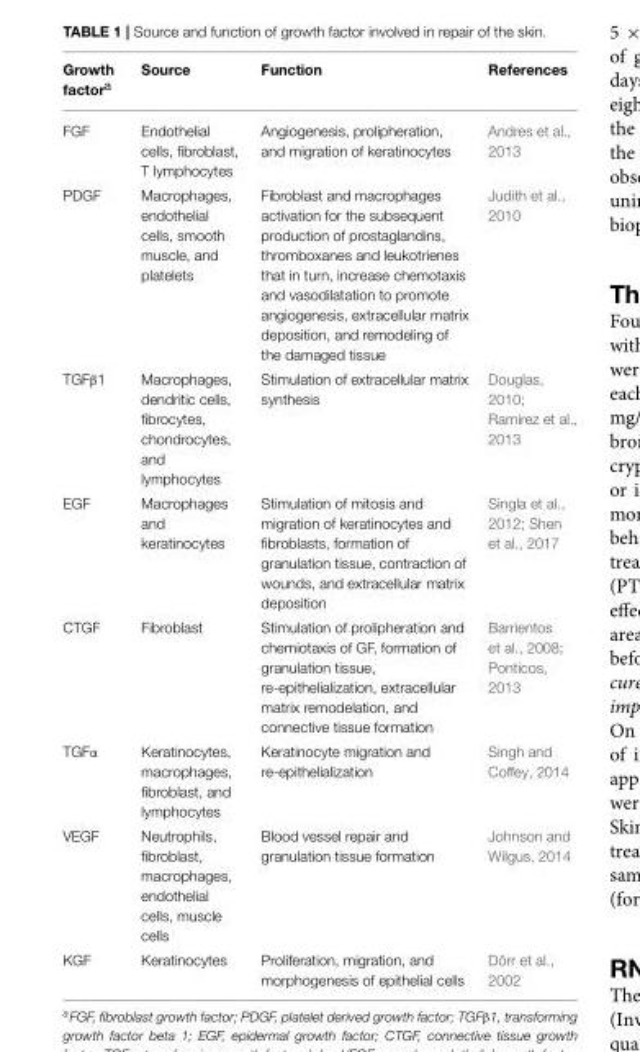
<table><thead><tr><td>Growth factor<sup>a</sup></td><td>Source</td><td>Function</td><td>References</td></tr></thead><tbody><tr><td>FGF</td><td>Endothelial cells, fibroblast, T lymphocytes</td><td>Angiogenesis, prolipheration, and migration of keratinocytes</td><td>Andres et al., 2013</td></tr><tr><td>PDGF</td><td>Macrophages, endothelial cells, smooth muscle, and platelets</td><td>Fibroblast and macrophages activation for the subsequent production of prostaglandins, thromboxanes and leukotrienes that in turn, increase chemotaxis and vasodilatation to promote angiogenesis, extracellular matrix deposition, and remodeling of the damaged tissue</td><td>Judith et al., 2010</td></tr><tr><td>TGFβ1</td><td>Macrophages, dendritic cells, fibrocytes, chondrocytes, and lymphocytes</td><td>Stimulation of extracellular matrix synthesis</td><td>Douglas, 2010; Ramirez et al., 2013</td></tr><tr><td>EGF</td><td>Macrophages and keratinocytes</td><td>Stimulation of mitosis and migration of keratinocytes and fibroblasts, formation of granulation tissue, contraction of wounds, and extracellular matrix deposition</td><td>Singla et al., 2012; Shen et al., 2017</td></tr><tr><td>CTGF</td><td>Fibroblast</td><td>Stimulation of prolipheration and chemiotaxis of GF, formation of granulation tissue, re-epithelialization, extracellular matrix remodelation, and connective tissue formation</td><td>Barrientos et al., 2008; Ponticos, 2013</td></tr><tr><td>TGFα</td><td>Keratinocytes, macrophages, fibroblast, and lymphocytes</td><td>Keratinocyte migration and re-epithelialization</td><td>Singh and Coffey, 2014</td></tr><tr><td>VEGF</td><td>Neutrophils, fibroblast, macrophages, endothelial cells, muscle cells</td><td>Blood vessel repair and granulation tissue formation</td><td>Johnson and Wilgus, 2014</td></tr><tr><td>KGF</td><td>Keratinocytes</td><td>Proliferation, migration, and morphogenesis of epithelial cells</td><td>Dörr et al., 2002</td></tr></tbody></table>